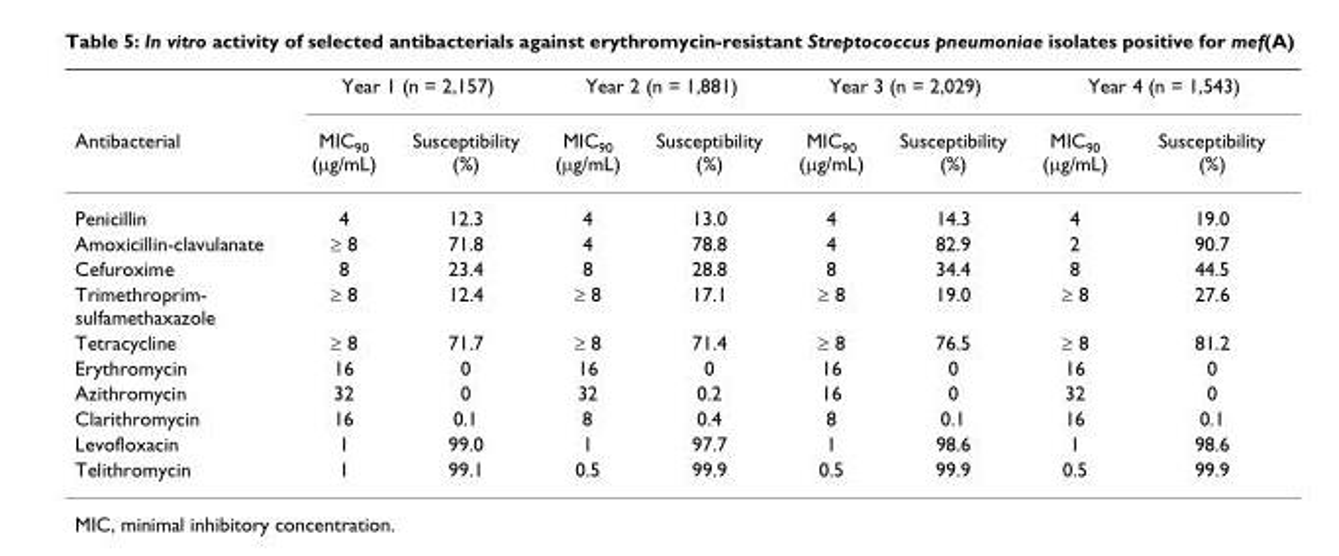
<table><thead><tr><td rowspan="2">Antibacterial</td><td colspan="2">Year 1 (n = 2,157)</td><td colspan="2">Year 2 (n = 1,881)</td><td colspan="2">Year 3 (n = 2,029)</td><td colspan="2">Year 4 (n = 1,543)</td></tr><tr><td>MIC<sub>90</sub> (μg/mL)</td><td>Susceptibility (%)</td><td>MIC<sub>90</sub> (μg/mL)</td><td>Susceptibility (%)</td><td>MIC<sub>90</sub> (μg/mL)</td><td>Susceptibility (%)</td><td>MIC<sub>90</sub> (μg/mL)</td><td>Susceptibility (%)</td></tr></thead><tbody><tr><td>Penicillin</td><td>4</td><td>12.3</td><td>4</td><td>13.0</td><td>4</td><td>14.3</td><td>4</td><td>19.0</td></tr><tr><td>Amoxicillin-clavulanate</td><td>≥ 8</td><td>71.8</td><td>4</td><td>78.8</td><td>4</td><td>82.9</td><td>2</td><td>90.7</td></tr><tr><td>Cefuroxime</td><td>8</td><td>23.4</td><td>8</td><td>28.8</td><td>8</td><td>34.4</td><td>8</td><td>44.5</td></tr><tr><td>Trimethroprim- sulfamethaxazole</td><td>≥ 8</td><td>12.4</td><td>≥ 8</td><td>17.1</td><td>≥ 8</td><td>19.0</td><td>≥ 8</td><td>27.6</td></tr><tr><td>Tetracycline</td><td>≥ 8</td><td>71.7</td><td>≥ 8</td><td>71.4</td><td>≥ 8</td><td>76.5</td><td>≥ 8</td><td>81.2</td></tr><tr><td>Erythromycin</td><td>16</td><td>0</td><td>16</td><td>0</td><td>16</td><td>0</td><td>16</td><td>0</td></tr><tr><td>Azithromycin</td><td>32</td><td>0</td><td>32</td><td>0.2</td><td>16</td><td>0</td><td>32</td><td>0</td></tr><tr><td>Clarithromycin</td><td>16</td><td>0.1</td><td>8</td><td>0.4</td><td>8</td><td>0.1</td><td>16</td><td>0.1</td></tr><tr><td>Levofloxacin</td><td>1</td><td>99.0</td><td>1</td><td>97.7</td><td>1</td><td>98.6</td><td>1</td><td>98.6</td></tr><tr><td>Telithromycin</td><td>1</td><td>99.1</td><td>0.5</td><td>99.9</td><td>0.5</td><td>99.9</td><td>0.5</td><td>99.9</td></tr></tbody></table>